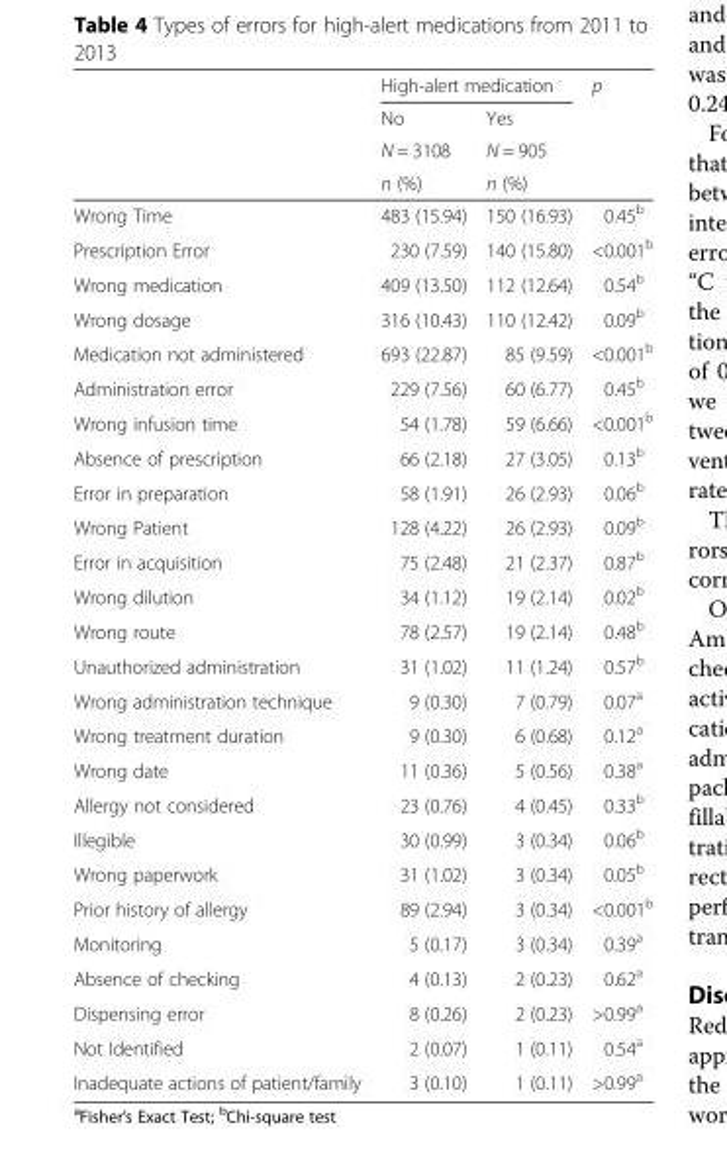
<table><thead><tr><td rowspan="4"></td><td colspan="2">High-alert medication</td><td rowspan="4">p</td></tr><tr><td rowspan="3">No N = 3108 n (%)</td><td rowspan="3">Yes N = 905 n (%)</td></tr><tr></tr><tr></tr></thead><tbody><tr><td>Wrong Time</td><td>483 (15.94)</td><td>150 (16.93)</td><td>0.45<sup>b</sup></td></tr><tr><td>Prescription Error</td><td>230 (7.59)</td><td>140 (15.80)</td><td>&lt;0.001<sup>b</sup></td></tr><tr><td>Wrong medication</td><td>409 (13.50)</td><td>112 (12.64)</td><td>0.54<sup>b</sup></td></tr><tr><td>Wrong dosage</td><td>316 (10.43)</td><td>110 (12.42)</td><td>0.09<sup>b</sup></td></tr><tr><td>Medication not administered</td><td>693 (22.87)</td><td>85 (9.59)</td><td>&lt;0.001<sup>b</sup></td></tr><tr><td>Administration error</td><td>229 (7.56)</td><td>60 (6.77)</td><td>0.45<sup>b</sup></td></tr><tr><td>Wrong infusion time</td><td>54 (1.78)</td><td>59 (6.66)</td><td>&lt;0.001<sup>b</sup></td></tr><tr><td>Absence of prescription</td><td>66 (2.18)</td><td>27 (3.05)</td><td>0.13<sup>b</sup></td></tr><tr><td>Error in preparation</td><td>58 (1.91)</td><td>26 (2.93)</td><td>0.06<sup>b</sup></td></tr><tr><td>Wrong Patient</td><td>128 (4.22)</td><td>26 (2.93)</td><td>0.09<sup>b</sup></td></tr><tr><td>Error in acquisition</td><td>75 (2.48)</td><td>21 (2.37)</td><td>0.87<sup>b</sup></td></tr><tr><td>Wrong dilution</td><td>34 (1.12)</td><td>19 (2.14)</td><td>0.02<sup>b</sup></td></tr><tr><td>Wrong route</td><td>78 (2.57)</td><td>19 (2.14)</td><td>0.48<sup>b</sup></td></tr><tr><td>Unauthorized administration</td><td>31 (1.02)</td><td>11 (1.24)</td><td>0.57<sup>b</sup></td></tr><tr><td>Wrong administration technique</td><td>9 (0.30)</td><td>7 (0.79)</td><td>0.07<sup>a</sup></td></tr><tr><td>Wrong treatment duration</td><td>9 (0.30)</td><td>6 (0.68)</td><td>0.12<sup>a</sup></td></tr><tr><td>Wrong date</td><td>11 (0.36)</td><td>5 (0.56)</td><td>0.38<sup>a</sup></td></tr><tr><td>Allergy not considered</td><td>23 (0.76)</td><td>4 (0.45)</td><td>0.33<sup>b</sup></td></tr><tr><td>Illegible</td><td>30 (0.99)</td><td>3 (0.34)</td><td>0.06<sup>b</sup></td></tr><tr><td>Wrong paperwork</td><td>31 (1.02)</td><td>3 (0.34)</td><td>0.05<sup>b</sup></td></tr><tr><td>Prior history of allergy</td><td>89 (2.94)</td><td>3 (0.34)</td><td>&lt;0.001<sup>b</sup></td></tr><tr><td>Monitoring</td><td>5 (0.17)</td><td>3 (0.34)</td><td>0.39<sup>a</sup></td></tr><tr><td>Absence of checking</td><td>4 (0.13)</td><td>2 (0.23)</td><td>0.62<sup>a</sup></td></tr><tr><td>Dispensing error</td><td>8 (0.26)</td><td>2 (0.23)</td><td>&gt;0.99<sup>a</sup></td></tr><tr><td>Not Identified</td><td>2 (0.07)</td><td>1 (0.11)</td><td>0.54<sup>a</sup></td></tr><tr><td>Inadequate actions of patient/family</td><td>3 (0.10)</td><td>1 (0.11)</td><td>&gt;0.99<sup>a</sup></td></tr></tbody></table>